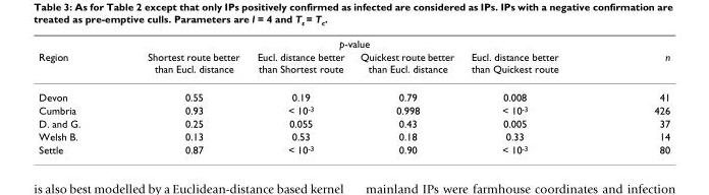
<table><thead><tr><td rowspan="2">Region</td><td colspan="4">p-value</td><td rowspan="2">n</td></tr><tr><td>Shortest route better than Eucl. distance</td><td>Eucl. distance better than Shortest route</td><td>Quickest route better than Eucl. distance</td><td>Eucl. distance better than Quickest route</td></tr></thead><tbody><tr><td>Devon</td><td>0.55</td><td>0.19</td><td>0.79</td><td>0.008</td><td>41</td></tr><tr><td>Cumbria</td><td>0.93</td><td>&lt; 10-3</td><td>0.998</td><td>&lt; 10-3</td><td>426</td></tr><tr><td>D. and G.</td><td>0.25</td><td>0.055</td><td>0.43</td><td>0.005</td><td>37</td></tr><tr><td>Welsh B.</td><td>0.13</td><td>0.53</td><td>0.18</td><td>0.33</td><td>14</td></tr><tr><td>Settle</td><td>0.87</td><td>&lt; 10-3</td><td>0.90</td><td>&lt; 10-3</td><td>80</td></tr></tbody></table>